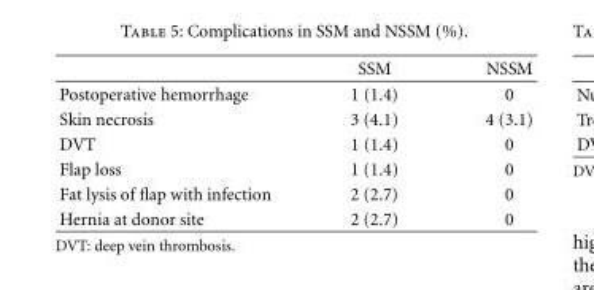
<table><thead><tr><td></td><td>SSM</td><td>NSSM</td></tr></thead><tbody><tr><td>Postoperative hemorrhage</td><td>1 (1.4)</td><td>0</td></tr><tr><td>Skin necrosis</td><td>3 (4.1)</td><td>4 (3.1)</td></tr><tr><td>DVT</td><td>1 (1.4)</td><td>0</td></tr><tr><td>Flap loss</td><td>1 (1.4)</td><td>0</td></tr><tr><td>Fat lysis of flap with infection</td><td>2 (2.7)</td><td>0</td></tr><tr><td>Hernia at donor site</td><td>2 (2.7)</td><td>0</td></tr></tbody></table>